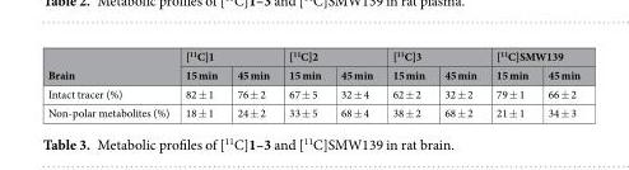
<table><thead><tr><td rowspan="2">Brain</td><td colspan="2">[<sup>11</sup>C]1</td><td colspan="2">[<sup>11</sup>C]2</td><td colspan="2">[<sup>11</sup>C]3</td><td colspan="2">[<sup>11</sup>C]SMW139</td></tr><tr><td>15 min</td><td>45 min</td><td>15 min</td><td>45 min</td><td>15 min</td><td>45 min</td><td>15 min</td><td>45 min</td></tr></thead><tbody><tr><td>Intact tracer (%)</td><td>82 ± 1</td><td>76 ± 2</td><td>67 ± 5</td><td>32 ± 4</td><td>62 ± 2</td><td>32 ± 2</td><td>79 ± 1</td><td>66 ± 2</td></tr><tr><td>Non-polar metabolites (%)</td><td>18 ± 1</td><td>24 ± 2</td><td>33 ± 5</td><td>68 ± 4</td><td>38 ± 2</td><td>68 ± 2</td><td>21 ± 1</td><td>34 ± 3</td></tr></tbody></table>